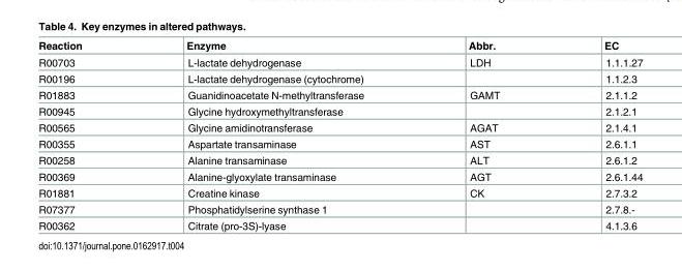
<table><thead><tr><td>Reaction</td><td>Enzyme</td><td>Abbr.</td><td>EC</td></tr></thead><tbody><tr><td>R00703</td><td>L-lactate dehydrogenase</td><td>LDH</td><td>1.1.1.27</td></tr><tr><td>R00196</td><td>L-lactate dehydrogenase (cytochrome)</td><td></td><td>1.1.2.3</td></tr><tr><td>R01883</td><td>Guanidinoacetate N-methyltransferase</td><td>GAMT</td><td>2.1.1.2</td></tr><tr><td>R00945</td><td>Glycine hydroxymethyltransferase</td><td></td><td>2.1.2.1</td></tr><tr><td>R00565</td><td>Glycine amidinotransferase</td><td>AGAT</td><td>2.1.4.1</td></tr><tr><td>R00355</td><td>Aspartate transaminase</td><td>AST</td><td>2.6.1.1</td></tr><tr><td>R00258</td><td>Alanine transaminase</td><td>ALT</td><td>2.6.1.2</td></tr><tr><td>R00369</td><td>Alanine-glyoxylate transaminase</td><td>AGT</td><td>2.6.1.44</td></tr><tr><td>R01881</td><td>Creatine kinase</td><td>CK</td><td>2.7.3.2</td></tr><tr><td>R07377</td><td>Phosphatidylserine synthase 1</td><td></td><td>2.7.8.-</td></tr><tr><td>R00362</td><td>Citrate (pro-3S)-lyase</td><td></td><td>4.1.3.6</td></tr></tbody></table>